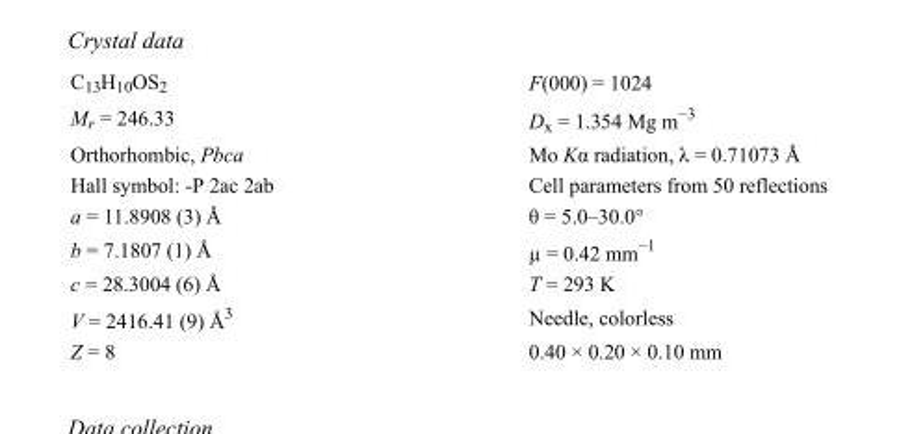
<table><tbody><tr><td>C<sub>13</sub>H<sub>10</sub>OS<sub>2</sub></td><td>F(000) = 1024</td></tr><tr><td>M<sub>r</sub> = 246.33</td><td>D<sub>x</sub> = 1.354 Mg m<sup>−3</sup></td></tr><tr><td>Orthorhombic, Pbca</td><td>Mo Kα radiation, λ = 0.71073 Å</td></tr><tr><td>Hall symbol: -P 2ac 2ab</td><td>Cell parameters from 50 reflections</td></tr><tr><td>a = 11.8908 (3) Å</td><td>θ = 5.0–30.0°</td></tr><tr><td>b = 7.1807 (1) Å</td><td>µ = 0.42 mm<sup>−1</sup></td></tr><tr><td>c = 28.3004 (6) Å</td><td>T = 293 K</td></tr><tr><td>V = 2416.41 (9) Å<sup>3</sup></td><td>Needle, colorless</td></tr><tr><td>Z = 8</td><td>0.40 × 0.20 × 0.10 mm</td></tr></tbody></table>